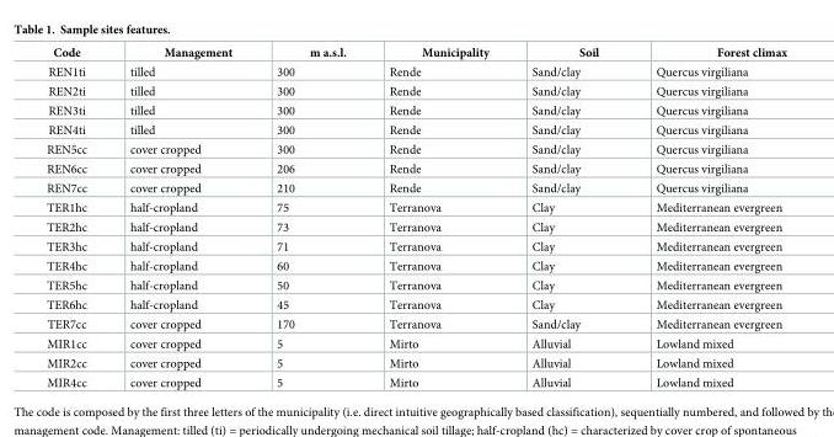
<table><thead><tr><td>Code</td><td>Management</td><td>m a.s.l.</td><td>Municipality</td><td>Soil</td><td>Forest climax</td></tr></thead><tbody><tr><td>REN1ti</td><td>tilled</td><td>300</td><td>Rende</td><td>Sand/clay</td><td>Quercus virgiliana</td></tr><tr><td>REN2ti</td><td>tilled</td><td>300</td><td>Rende</td><td>Sand/clay</td><td>Quercus virgiliana</td></tr><tr><td>REN3ti</td><td>tilled</td><td>300</td><td>Rende</td><td>Sand/clay</td><td>Quercus virgiliana</td></tr><tr><td>REN4ti</td><td>tilled</td><td>300</td><td>Rende</td><td>Sand/clay</td><td>Quercus virgiliana</td></tr><tr><td>REN5cc</td><td>cover cropped</td><td>300</td><td>Rende</td><td>Sand/clay</td><td>Quercus virgiliana</td></tr><tr><td>REN6cc</td><td>cover cropped</td><td>206</td><td>Rende</td><td>Sand/clay</td><td>Quercus virgiliana</td></tr><tr><td>REN7cc</td><td>cover cropped</td><td>210</td><td>Rende</td><td>Sand/clay</td><td>Quercus virgiliana</td></tr><tr><td>TER1hc</td><td>half-cropland</td><td>75</td><td>Terranova</td><td>Clay</td><td>Mediterranean evergreen</td></tr><tr><td>TER2hc</td><td>half-cropland</td><td>73</td><td>Terranova</td><td>Clay</td><td>Mediterranean evergreen</td></tr><tr><td>TER3hc</td><td>half-cropland</td><td>71</td><td>Terranova</td><td>Clay</td><td>Mediterranean evergreen</td></tr><tr><td>TER4hc</td><td>half-cropland</td><td>60</td><td>Terranova</td><td>Clay</td><td>Mediterranean evergreen</td></tr><tr><td>TER5hc</td><td>half-cropland</td><td>50</td><td>Terranova</td><td>Clay</td><td>Mediterranean evergreen</td></tr><tr><td>TER6hc</td><td>half-cropland</td><td>45</td><td>Terranova</td><td>Clay</td><td>Mediterranean evergreen</td></tr><tr><td>TER7cc</td><td>cover cropped</td><td>170</td><td>Terranova</td><td>Sand/clay</td><td>Mediterranean evergreen</td></tr><tr><td>MIR1cc</td><td>cover cropped</td><td>5</td><td>Mirto</td><td>Alluvial</td><td>Lowland mixed</td></tr><tr><td>MIR2cc</td><td>cover cropped</td><td>5</td><td>Mirto</td><td>Alluvial</td><td>Lowland mixed</td></tr><tr><td>MIR4cc</td><td>cover cropped</td><td>5</td><td>Mirto</td><td>Alluvial</td><td>Lowland mixed</td></tr></tbody></table>